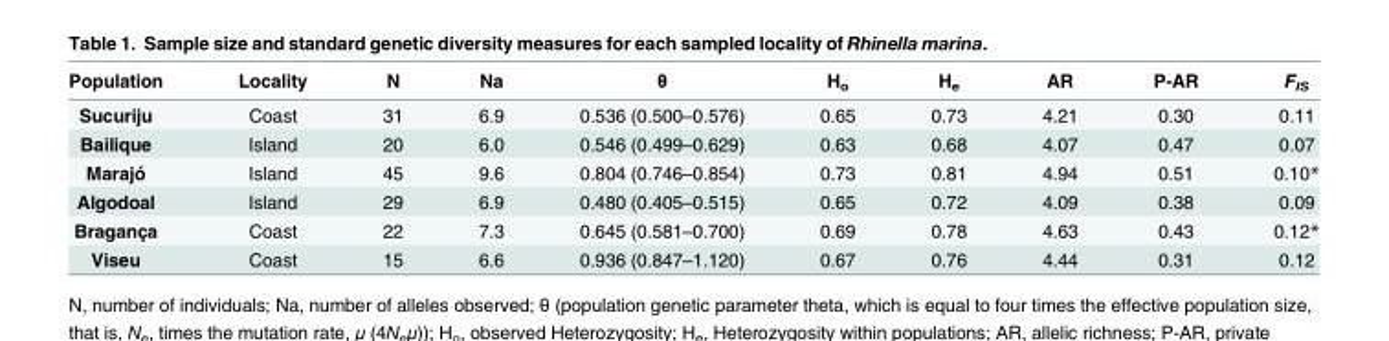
<table><thead><tr><td>Population</td><td>Locality</td><td>N</td><td>Na</td><td>θ</td><td>H<sub>o</sub></td><td>H<sub>e</sub></td><td>AR</td><td>P-AR</td><td>F<sub>IS</sub></td></tr></thead><tbody><tr><td>Sucuriju</td><td>Coast</td><td>31</td><td>6.9</td><td>0.536 (0.500–0.576)</td><td>0.65</td><td>0.73</td><td>4.21</td><td>0.30</td><td>0.11</td></tr><tr><td>Bailique</td><td>Island</td><td>20</td><td>6.0</td><td>0.546 (0.499–0.629)</td><td>0.63</td><td>0.68</td><td>4.07</td><td>0.47</td><td>0.07</td></tr><tr><td>Marajó</td><td>Island</td><td>45</td><td>9.6</td><td>0.804 (0.746–0.854)</td><td>0.73</td><td>0.81</td><td>4.94</td><td>0.51</td><td>0.10*</td></tr><tr><td>Algodoal</td><td>Island</td><td>29</td><td>6.9</td><td>0.480 (0.405–0.515)</td><td>0.65</td><td>0.72</td><td>4.09</td><td>0.38</td><td>0.09</td></tr><tr><td>Bragança</td><td>Coast</td><td>22</td><td>7.3</td><td>0.645 (0.581–0.700)</td><td>0.69</td><td>0.78</td><td>4.63</td><td>0.43</td><td>0.12*</td></tr><tr><td>Viseu</td><td>Coast</td><td>15</td><td>6.6</td><td>0.936 (0.847–1.120)</td><td>0.67</td><td>0.76</td><td>4.44</td><td>0.31</td><td>0.12</td></tr></tbody></table>